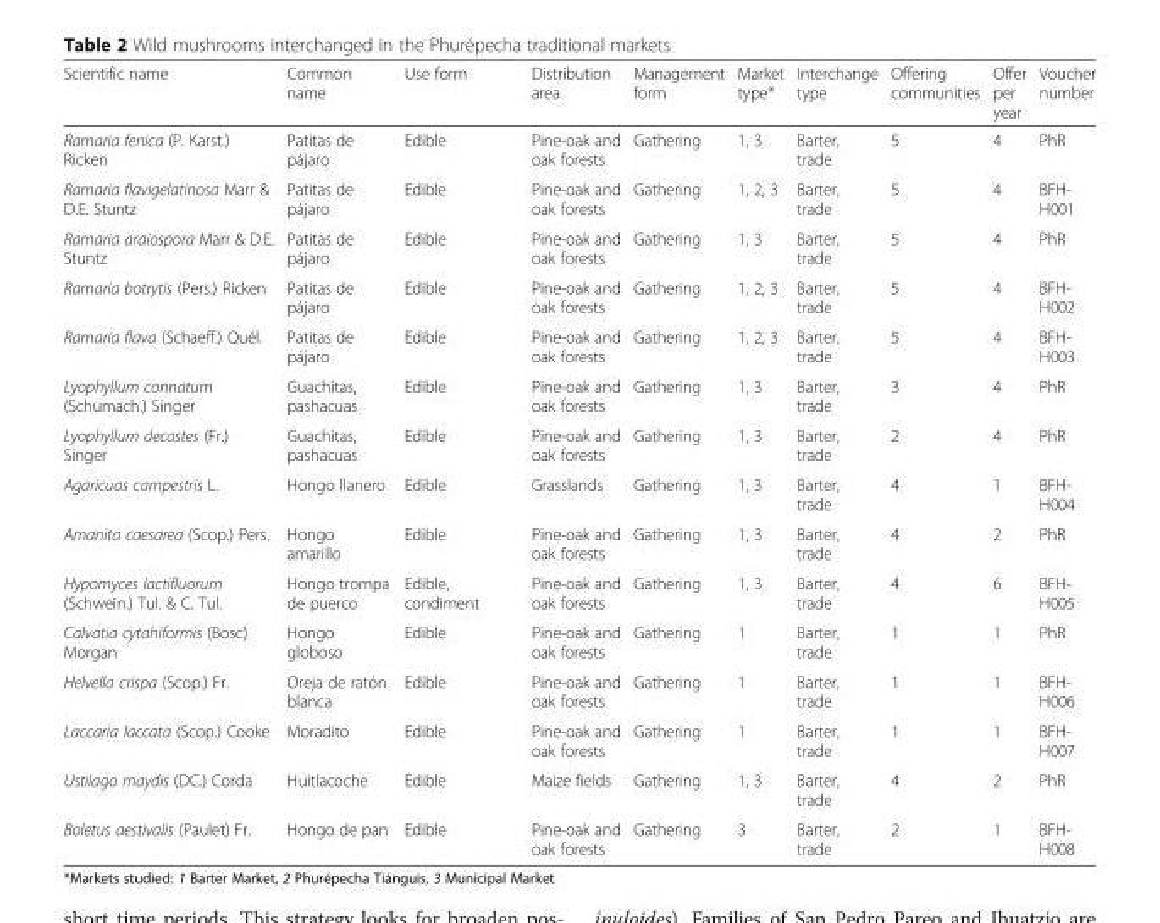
<table><thead><tr><td>Scientific name</td><td>Common name</td><td>Use form</td><td>Distribution area</td><td>Management form</td><td>Market type*</td><td>Interchange type</td><td>Offering communities</td><td>Offer per year</td><td>Voucher number</td></tr></thead><tbody><tr><td>Ramaria fenica (P. Karst.) Ricken</td><td>Patitas de pájaro</td><td>Edible</td><td>Pine-oak and oak forests</td><td>Gathering</td><td>1, 3</td><td>Barter, trade</td><td>5</td><td>4</td><td>PhR</td></tr><tr><td>Ramaria flavigelatinosa Marr &amp; D.E. Stuntz</td><td>Patitas de pájaro</td><td>Edible</td><td>Pine-oak and oak forests</td><td>Gathering</td><td>1, 2, 3</td><td>Barter, trade</td><td>5</td><td>4</td><td>BFH- H001</td></tr><tr><td>Ramaria araiospora Marr &amp; D.E. Stuntz</td><td>Patitas de pájaro</td><td>Edible</td><td>Pine-oak and oak forests</td><td>Gathering</td><td>1, 3</td><td>Barter, trade</td><td>5</td><td>4</td><td>PhR</td></tr><tr><td>Ramaria botrytis (Pers.) Ricken</td><td>Patitas de pájaro</td><td>Edible</td><td>Pine-oak and oak forests</td><td>Gathering</td><td>1, 2, 3</td><td>Barter, trade</td><td>5</td><td>4</td><td>BFH- H002</td></tr><tr><td>Ramaria flava (Schaeff.) Quél.</td><td>Patitas de pájaro</td><td>Edible</td><td>Pine-oak and oak forests</td><td>Gathering</td><td>1, 2, 3</td><td>Barter, trade</td><td>5</td><td>4</td><td>BFH- H003</td></tr><tr><td>Lyophyllum connatum (Schumach.) Singer</td><td>Guachitas, pashacuas</td><td>Edible</td><td>Pine-oak and oak forests</td><td>Gathering</td><td>1, 3</td><td>Barter, trade</td><td>3</td><td>4</td><td>PhR</td></tr><tr><td>Lyophyllum decastes (Fr.) Singer</td><td>Guachitas, pashacuas</td><td>Edible</td><td>Pine-oak and oak forests</td><td>Gathering</td><td>1, 3</td><td>Barter, trade</td><td>2</td><td>4</td><td>PhR</td></tr><tr><td>Agaricuas campestris L.</td><td>Hongo llanero</td><td>Edible</td><td>Grasslands</td><td>Gathering</td><td>1, 3</td><td>Barter, trade</td><td>4</td><td>1</td><td>BFH- H004</td></tr><tr><td>Amanita caesarea (Scop.) Pers.</td><td>Hongo amarillo</td><td>Edible</td><td>Pine-oak and oak forests</td><td>Gathering</td><td>1, 3</td><td>Barter, trade</td><td>4</td><td>2</td><td>PhR</td></tr><tr><td>Hypomyces lactifluorum (Schwein.) Tul. &amp; C. Tul.</td><td>Hongo trompa de puerco</td><td>Edible, condiment</td><td>Pine-oak and oak forests</td><td>Gathering</td><td>1, 3</td><td>Barter, trade</td><td>4</td><td>6</td><td>BFH- H005</td></tr><tr><td>Calvatia cytahiformis (Bosc) Morgan</td><td>Hongo globoso</td><td>Edible</td><td>Pine-oak and oak forests</td><td>Gathering</td><td>1</td><td>Barter, trade</td><td>1</td><td>1</td><td>PhR</td></tr><tr><td>Helvella crispa (Scop.) Fr.</td><td>Oreja de ratón blanca</td><td>Edible</td><td>Pine-oak and oak forests</td><td>Gathering</td><td>1</td><td>Barter, trade</td><td>1</td><td>1</td><td>BFH- H006</td></tr><tr><td>Laccaria laccata (Scop.) Cooke</td><td>Moradito</td><td>Edible</td><td>Pine-oak and oak forests</td><td>Gathering</td><td>1</td><td>Barter, trade</td><td>1</td><td>1</td><td>BFH- H007</td></tr><tr><td>Ustilago maydis (DC.) Corda</td><td>Huitlacoche</td><td>Edible</td><td>Maize fields</td><td>Gathering</td><td>1, 3</td><td>Barter, trade</td><td>4</td><td>2</td><td>PhR</td></tr><tr><td>Boletus aestivalis (Paulet) Fr.</td><td>Hongo de pan</td><td>Edible</td><td>Pine-oak and oak forests</td><td>Gathering</td><td>3</td><td>Barter, trade</td><td>2</td><td>1</td><td>BFH- H008</td></tr></tbody></table>